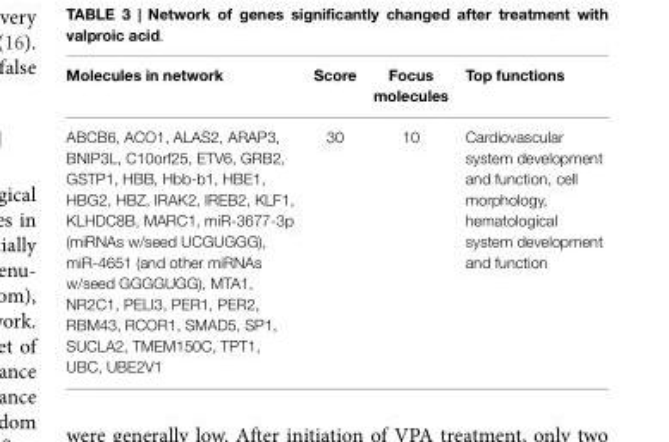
<table><thead><tr><td>Molecules in network</td><td>Score</td><td>Focus molecules</td><td>Top functions</td></tr></thead><tbody><tr><td>ABCB6, ACO1, ALAS2, ARAP3, BNIP3L, C10orf25, ETV6, GRB2, GSTP1, HBB, Hbb-b1, HBE1, HBG2, HBZ, IRAK2, IREB2, KLF1, KLHDC8B, MARC1, miR-3677-3p (miRNAs w/seed UCGUGGG), miR-4651 (and other miRNAs w/seed GGGGUGG), MTA1, NR2C1, PELI3, PER1, PER2, RBM43, RCOR1, SMAD5, SP1, SUCLA2, TMEM150C, TPT1, UBC, UBE2V1</td><td>30</td><td>10</td><td>Cardiovascular system development and function, cell morphology, hematological system development and function</td></tr></tbody></table>